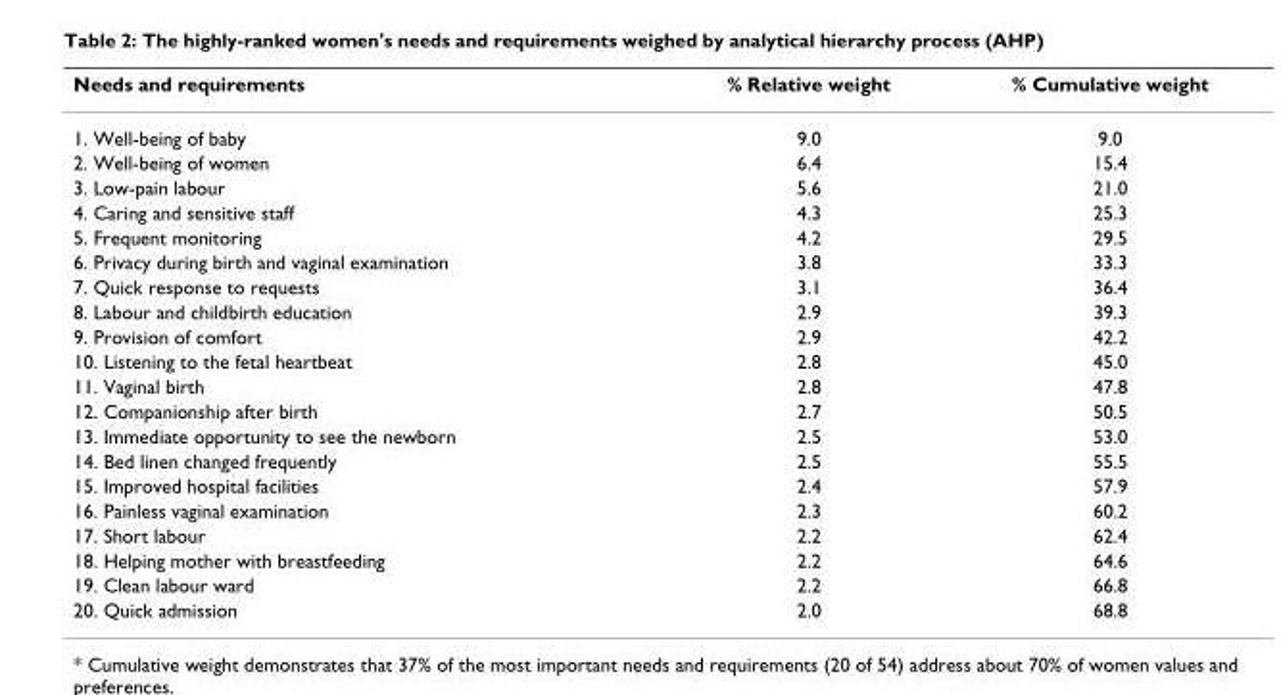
<table><thead><tr><td>Needs and requirements</td><td>% Relative weight</td><td>% Cumulative weight</td></tr></thead><tbody><tr><td>1. Well-being of baby</td><td>9.0</td><td>9.0</td></tr><tr><td>2. Well-being of women</td><td>6.4</td><td>15.4</td></tr><tr><td>3. Low-pain labour</td><td>5.6</td><td>21.0</td></tr><tr><td>4. Caring and sensitive staff</td><td>4.3</td><td>25.3</td></tr><tr><td>5. Frequent monitoring</td><td>4.2</td><td>29.5</td></tr><tr><td>6. Privacy during birth and vaginal examination</td><td>3.8</td><td>33.3</td></tr><tr><td>7. Quick response to requests</td><td>3.1</td><td>36.4</td></tr><tr><td>8. Labour and childbirth education</td><td>2.9</td><td>39.3</td></tr><tr><td>9. Provision of comfort</td><td>2.9</td><td>42.2</td></tr><tr><td>10. Listening to the fetal heartbeat</td><td>2.8</td><td>45.0</td></tr><tr><td>11. Vaginal birth</td><td>2.8</td><td>47.8</td></tr><tr><td>12. Companionship after birth</td><td>2.7</td><td>50.5</td></tr><tr><td>13. Immediate opportunity to see the newborn</td><td>2.5</td><td>53.0</td></tr><tr><td>14. Bed linen changed frequently</td><td>2.5</td><td>55.5</td></tr><tr><td>15. Improved hospital facilities</td><td>2.4</td><td>57.9</td></tr><tr><td>16. Painless vaginal examination</td><td>2.3</td><td>60.2</td></tr><tr><td>17. Short labour</td><td>2.2</td><td>62.4</td></tr><tr><td>18. Helping mother with breastfeeding</td><td>2.2</td><td>64.6</td></tr><tr><td>19. Clean labour ward</td><td>2.2</td><td>66.8</td></tr><tr><td>20. Quick admission</td><td>2.0</td><td>68.8</td></tr></tbody></table>